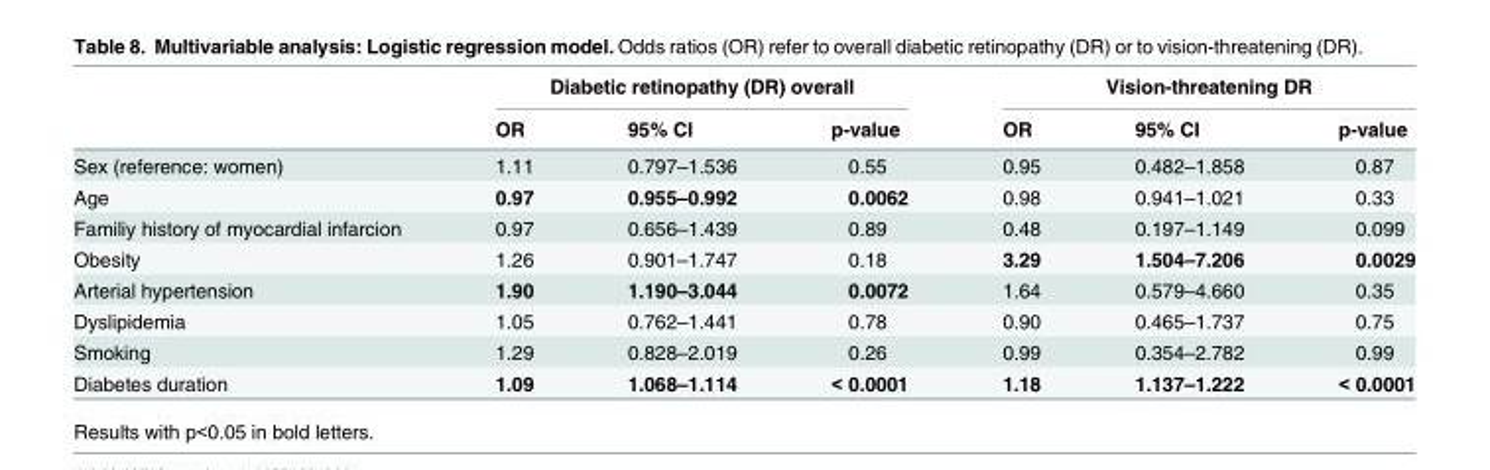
<table><thead><tr><td rowspan="2"></td><td colspan="3">Diabetic retinopathy (DR) overall</td><td colspan="3">Vision-threatening DR</td></tr><tr><td>OR</td><td>95% CI</td><td>p-value</td><td>OR</td><td>95% CI</td><td>p-value</td></tr></thead><tbody><tr><td>Sex (reference: women)</td><td>1.11</td><td>0.797–1.536</td><td>0.55</td><td>0.95</td><td>0.482–1.858</td><td>0.87</td></tr><tr><td>Age</td><td>0.97</td><td>0.955–0.992</td><td>0.0062</td><td>0.98</td><td>0.941–1.021</td><td>0.33</td></tr><tr><td>Familiy history of myocardial infarcion</td><td>0.97</td><td>0.656–1.439</td><td>0.89</td><td>0.48</td><td>0.197–1.149</td><td>0.099</td></tr><tr><td>Obesity</td><td>1.26</td><td>0.901–1.747</td><td>0.18</td><td>3.29</td><td>1.504–7.206</td><td>0.0029</td></tr><tr><td>Arterial hypertension</td><td>1.90</td><td>1.190–3.044</td><td>0.0072</td><td>1.64</td><td>0.579–4.660</td><td>0.35</td></tr><tr><td>Dyslipidemia</td><td>1.05</td><td>0.762–1.441</td><td>0.78</td><td>0.90</td><td>0.465–1.737</td><td>0.75</td></tr><tr><td>Smoking</td><td>1.29</td><td>0.828–2.019</td><td>0.26</td><td>0.99</td><td>0.354–2.782</td><td>0.99</td></tr><tr><td>Diabetes duration</td><td>1.09</td><td>1.068–1.114</td><td>&lt; 0.0001</td><td>1.18</td><td>1.137–1.222</td><td>&lt; 0.0001</td></tr></tbody></table>